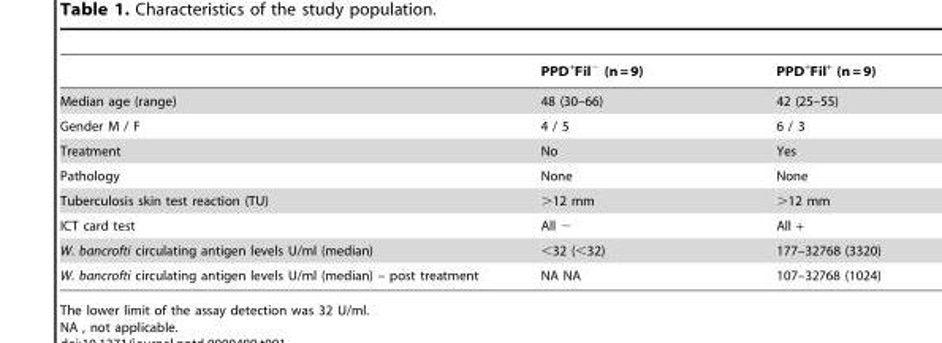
<table><thead><tr><td></td><td>PPD<sup>+</sup>Fil<sup>−</sup> (n = 9)</td><td>PPD<sup>+</sup>Fil<sup>+</sup> (n = 9)</td></tr></thead><tbody><tr><td>Median age (range)</td><td>48 (30–66)</td><td>42 (25–55)</td></tr><tr><td>Gender M / F</td><td>4 / 5</td><td>6 / 3</td></tr><tr><td>Treatment</td><td>No</td><td>Yes</td></tr><tr><td>Pathology</td><td>None</td><td>None</td></tr><tr><td>Tuberculosis skin test reaction (TU)</td><td>&gt;12 mm</td><td>&gt;12 mm</td></tr><tr><td>ICT card test</td><td>All −</td><td>All +</td></tr><tr><td>W. bancrofti circulating antigen levels U/ml (median)</td><td>&lt;32 (&lt;32)</td><td>177–32768 (3320)</td></tr><tr><td>W. bancrofti circulating antigen levels U/ml (median) – post treatment</td><td>NA NA</td><td>107–32768 (1024)</td></tr></tbody></table>